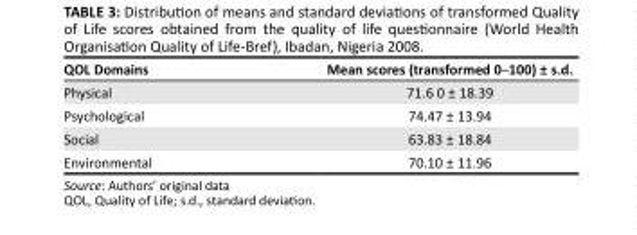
<table><thead><tr><td>QOL Domains</td><td>Mean scores (transformed 0–100) ± s.d.</td></tr></thead><tbody><tr><td>Physical</td><td>71.6 0 ± 18.39</td></tr><tr><td>Psychological</td><td>74.47 ± 13.94</td></tr><tr><td>Social</td><td>63.83 ± 18.84</td></tr><tr><td>Environmental</td><td>70.10 ± 11.96</td></tr></tbody></table>